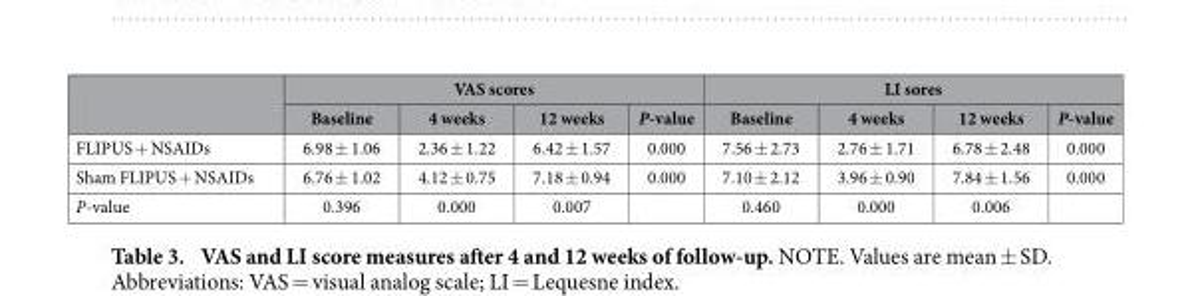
<table><thead><tr><td rowspan="2"></td><td colspan="4">VAS scores</td><td colspan="4">LI sores</td></tr><tr><td>Baseline</td><td>4 weeks</td><td>12 weeks</td><td>P-value</td><td>Baseline</td><td>4 weeks</td><td>12 weeks</td><td>P-value</td></tr></thead><tbody><tr><td>FLIPUS + NSAIDs</td><td>6.98 ± 1.06</td><td>2.36 ± 1.22</td><td>6.42 ± 1.57</td><td>0.000</td><td>7.56 ± 2.73</td><td>2.76 ± 1.71</td><td>6.78 ± 2.48</td><td>0.000</td></tr><tr><td>Sham FLIPUS + NSAIDs</td><td>6.76 ± 1.02</td><td>4.12 ± 0.75</td><td>7.18 ± 0.94</td><td>0.000</td><td>7.10 ± 2.12</td><td>3.96 ± 0.90</td><td>7.84 ± 1.56</td><td>0.000</td></tr><tr><td>P-value</td><td>0.396</td><td>0.000</td><td>0.007</td><td></td><td>0.460</td><td>0.000</td><td>0.006</td><td></td></tr></tbody></table>